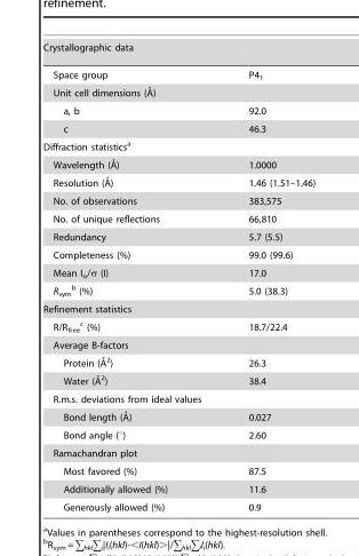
<table><tbody><tr><td colspan="2">Crystallographic data</td></tr><tr><td>Space group</td><td>P4<sub>1</sub></td></tr><tr><td colspan="2">Unit cell dimensions (A˚)</td></tr><tr><td>a, b</td><td>92.0</td></tr><tr><td>c</td><td>46.3</td></tr><tr><td colspan="2">Diffraction statistics<sup>a</sup></td></tr><tr><td>Wavelength (A˚)</td><td>1.0000</td></tr><tr><td>Resolution (A˚)</td><td>1.46 (1.51–1.46)</td></tr><tr><td>No. of observations</td><td>383,575</td></tr><tr><td>No. of unique reflections</td><td>66,810</td></tr><tr><td>Redundancy</td><td>5.7 (5.5)</td></tr><tr><td>Completeness (%)</td><td>99.0 (99.6)</td></tr><tr><td>Mean I<sub>o</sub>/σ (I)</td><td>17.0</td></tr><tr><td>R<sub>sym</sub> b (%)</td><td>5.0 (38.3)</td></tr><tr><td colspan="2">Refinement statistics</td></tr><tr><td>R/R<sub>free</sub> c (%)</td><td>18.7/22.4</td></tr><tr><td colspan="2">Average B-factors</td></tr><tr><td>Protein (A˚ 2)</td><td>26.3</td></tr><tr><td>Water (A˚2)</td><td>38.4</td></tr><tr><td colspan="2">R.m.s. deviations from ideal values</td></tr><tr><td>Bond length (A˚)</td><td>0.027</td></tr><tr><td>Bond angle (°)</td><td>2.60</td></tr><tr><td colspan="2">Ramachandran plot</td></tr><tr><td>Most favored (%)</td><td>87.5</td></tr><tr><td>Additionally allowed (%)</td><td>11.6</td></tr><tr><td>Generously allowed (%)</td><td>0.9</td></tr></tbody></table>